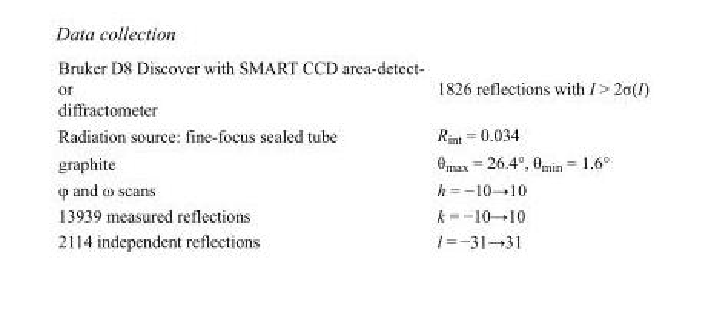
<table><tbody><tr><td>Bruker D8 Discover with SMART CCD area-detect- or diffractometer</td><td>1826 reflections with I &gt; 2σ(I)</td></tr><tr><td>Radiation source: fine-focus sealed tube</td><td>R<sub>int</sub> = 0.034</td></tr><tr><td>graphite</td><td>θ<sub>max</sub> = 26.4°, θ<sub>min</sub> = 1.6°</td></tr><tr><td>φ and ω scans</td><td>h = −10→10</td></tr><tr><td>13939 measured reflections</td><td>k = −10→10</td></tr><tr><td>2114 independent reflections</td><td>l = −31→31</td></tr></tbody></table>